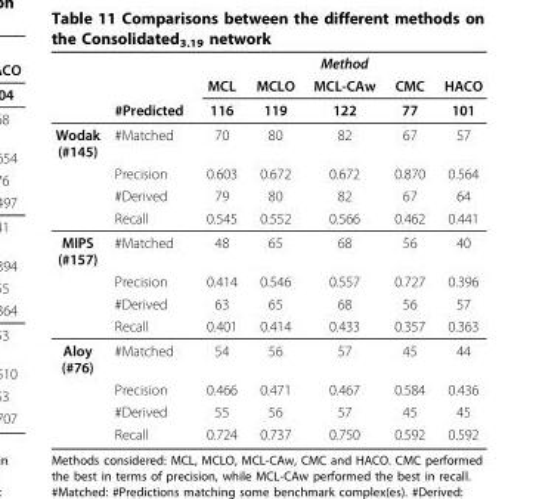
<table><thead><tr><td rowspan="3"></td><td rowspan="3">#Predicted</td><td colspan="5">Method</td></tr><tr><td rowspan="2">MCL 116</td><td rowspan="2">MCLO 119</td><td rowspan="2">MCL-CAw 122</td><td rowspan="2">CMC 77</td><td rowspan="2">HACO 101</td></tr><tr></tr></thead><tbody><tr><td rowspan="4">Wodak (#145)</td><td>#Matched</td><td>70</td><td>80</td><td>82</td><td>67</td><td>57</td></tr><tr><td>Precision</td><td>0.603</td><td>0.672</td><td>0.672</td><td>0.870</td><td>0.564</td></tr><tr><td>#Derived</td><td>79</td><td>80</td><td>82</td><td>67</td><td>64</td></tr><tr><td>Recall</td><td>0.545</td><td>0.552</td><td>0.566</td><td>0.462</td><td>0.441</td></tr><tr><td rowspan="4">MIPS (#157)</td><td>#Matched</td><td>48</td><td>65</td><td>68</td><td>56</td><td>40</td></tr><tr><td>Precision</td><td>0.414</td><td>0.546</td><td>0.557</td><td>0.727</td><td>0.396</td></tr><tr><td>#Derived</td><td>63</td><td>65</td><td>68</td><td>56</td><td>57</td></tr><tr><td>Recall</td><td>0.401</td><td>0.414</td><td>0.433</td><td>0.357</td><td>0.363</td></tr><tr><td rowspan="4">Aloy (#76)</td><td>#Matched</td><td>54</td><td>56</td><td>57</td><td>45</td><td>44</td></tr><tr><td>Precision</td><td>0.466</td><td>0.471</td><td>0.467</td><td>0.584</td><td>0.436</td></tr><tr><td>#Derived</td><td>55</td><td>56</td><td>57</td><td>45</td><td>45</td></tr><tr><td>Recall</td><td>0.724</td><td>0.737</td><td>0.750</td><td>0.592</td><td>0.592</td></tr></tbody></table>